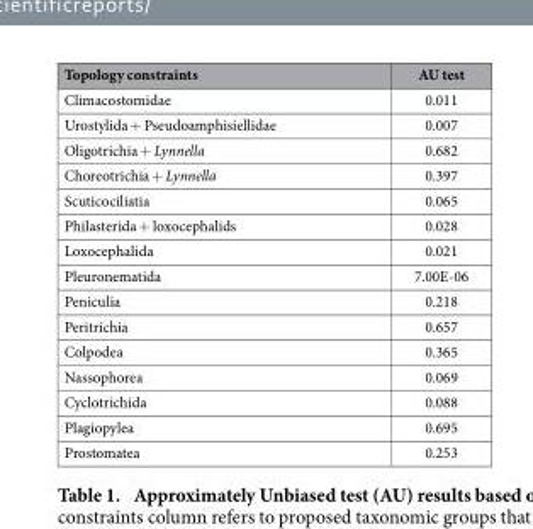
<table><thead><tr><td>Topology constraints</td><td>AU test</td></tr></thead><tbody><tr><td>Climacostomidae</td><td>0.011</td></tr><tr><td>Urostylida + Pseudoamphisiellidae</td><td>0.007</td></tr><tr><td>Oligotrichia + Lynnella</td><td>0.682</td></tr><tr><td>Choreotrichia + Lynnella</td><td>0.397</td></tr><tr><td>Scuticociliatia</td><td>0.065</td></tr><tr><td>Philasterida + loxocephalids</td><td>0.028</td></tr><tr><td>Loxocephalida</td><td>0.021</td></tr><tr><td>Pleuronematida</td><td>7.00E-06</td></tr><tr><td>Peniculia</td><td>0.218</td></tr><tr><td>Peritrichia</td><td>0.657</td></tr><tr><td>Colpodea</td><td>0.365</td></tr><tr><td>Nassophorea</td><td>0.069</td></tr><tr><td>Cyclotrichida</td><td>0.088</td></tr><tr><td>Plagiopylea</td><td>0.695</td></tr><tr><td>Prostomatea</td><td>0.253</td></tr></tbody></table>